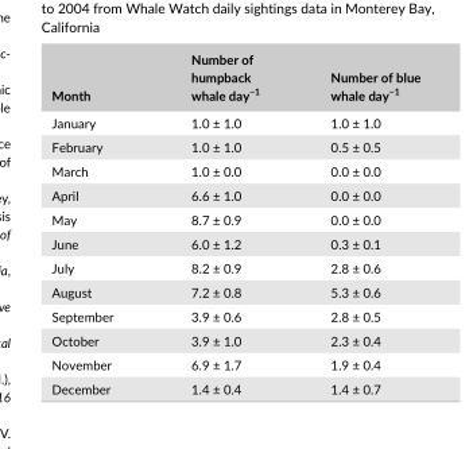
<table><thead><tr><td>Month</td><td>Number of humpback whale day<sup>−1</sup></td><td>Number of blue whale day<sup>−1</sup></td></tr></thead><tbody><tr><td>January</td><td>1.0 ± 1.0</td><td>1.0 ± 1.0</td></tr><tr><td>February</td><td>1.0 ± 1.0</td><td>0.5 ± 0.5</td></tr><tr><td>March</td><td>1.0 ± 0.0</td><td>0.0 ± 0.0</td></tr><tr><td>April</td><td>6.6 ± 1.0</td><td>0.0 ± 0.0</td></tr><tr><td>May</td><td>8.7 ± 0.9</td><td>0.0 ± 0.0</td></tr><tr><td>June</td><td>6.0 ± 1.2</td><td>0.3 ± 0.1</td></tr><tr><td>July</td><td>8.2 ± 0.9</td><td>2.8 ± 0.6</td></tr><tr><td>August</td><td>7.2 ± 0.8</td><td>5.3 ± 0.6</td></tr><tr><td>September</td><td>3.9 ± 0.6</td><td>2.8 ± 0.5</td></tr><tr><td>October</td><td>3.9 ± 1.0</td><td>2.3 ± 0.4</td></tr><tr><td>November</td><td>6.9 ± 1.7</td><td>1.9 ± 0.4</td></tr><tr><td>December</td><td>1.4 ± 0.4</td><td>1.4 ± 0.7</td></tr></tbody></table>